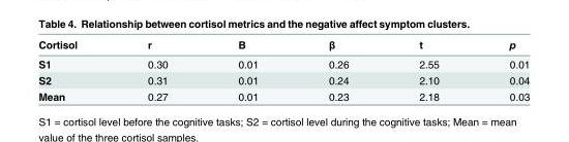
<table><thead><tr><td>Cortisol</td><td>r</td><td>B</td><td>β</td><td>t</td><td>p</td></tr></thead><tbody><tr><td>S1</td><td>0.30</td><td>0.01</td><td>0.26</td><td>2.55</td><td>0.01</td></tr><tr><td>S2</td><td>0.31</td><td>0.01</td><td>0.24</td><td>2.10</td><td>0.04</td></tr><tr><td>Mean</td><td>0.27</td><td>0.01</td><td>0.23</td><td>2.18</td><td>0.03</td></tr></tbody></table>